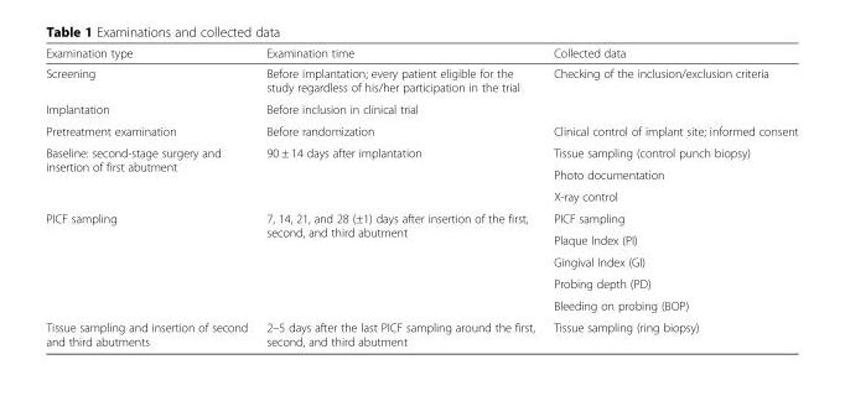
<table><thead><tr><td>Examination type</td><td>Examination time</td><td>Collected data</td></tr></thead><tbody><tr><td>Screening</td><td>Before implantation; every patient eligible for the study regardless of his/her participation in the trial</td><td>Checking of the inclusion/exclusion criteria</td></tr><tr><td>Implantation</td><td>Before inclusion in clinical trial</td><td></td></tr><tr><td>Pretreatment examination</td><td>Before randomization</td><td>Clinical control of implant site; informed consent</td></tr><tr><td rowspan="3">Baseline: second-stage surgery and insertion of first abutment</td><td rowspan="3">90 ± 14 days after implantation</td><td>Tissue sampling (control punch biopsy)</td></tr><tr><td>Photo documentation</td></tr><tr><td>X-ray control</td></tr><tr><td rowspan="5">PICF sampling</td><td rowspan="5">7, 14, 21, and 28 (±1) days after insertion of the first, second, and third abutment</td><td>PICF sampling</td></tr><tr><td>Plaque Index (PI)</td></tr><tr><td>Gingival Index (GI)</td></tr><tr><td>Probing depth (PD)</td></tr><tr><td>Bleeding on probing (BOP)</td></tr><tr><td>Tissue sampling and insertion of second and third abutments</td><td>2–5 days after the last PICF sampling around the first, second, and third abutment</td><td>Tissue sampling (ring biopsy)</td></tr></tbody></table>